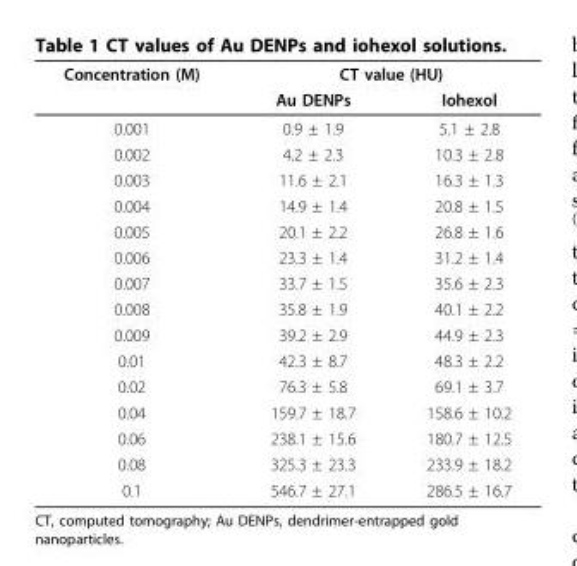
<table><thead><tr><td rowspan="2">Concentration (M)</td><td colspan="2">CT value (HU)</td></tr><tr><td>Au DENPs</td><td>Iohexol</td></tr></thead><tbody><tr><td>0.001</td><td>0.9 ± 1.9</td><td>5.1 ± 2.8</td></tr><tr><td>0.002</td><td>4.2 ± 2.3</td><td>10.3 ± 2.8</td></tr><tr><td>0.003</td><td>11.6 ± 2.1</td><td>16.3 ± 1.3</td></tr><tr><td>0.004</td><td>14.9 ± 1.4</td><td>20.8 ± 1.5</td></tr><tr><td>0.005</td><td>20.1 ± 2.2</td><td>26.8 ± 1.6</td></tr><tr><td>0.006</td><td>23.3 ± 1.4</td><td>31.2 ± 1.4</td></tr><tr><td>0.007</td><td>33.7 ± 1.5</td><td>35.6 ± 2.3</td></tr><tr><td>0.008</td><td>35.8 ± 1.9</td><td>40.1 ± 2.2</td></tr><tr><td>0.009</td><td>39.2 ± 2.9</td><td>44.9 ± 2.3</td></tr><tr><td>0.01</td><td>42.3 ± 8.7</td><td>48.3 ± 2.2</td></tr><tr><td>0.02</td><td>76.3 ± 5.8</td><td>69.1 ± 3.7</td></tr><tr><td>0.04</td><td>159.7 ± 18.7</td><td>158.6 ± 10.2</td></tr><tr><td>0.06</td><td>238.1 ± 15.6</td><td>180.7 ± 12.5</td></tr><tr><td>0.08</td><td>325.3 ± 23.3</td><td>233.9 ± 18.2</td></tr><tr><td>0.1</td><td>546.7 ± 27.1</td><td>286.5 ± 16.7</td></tr></tbody></table>